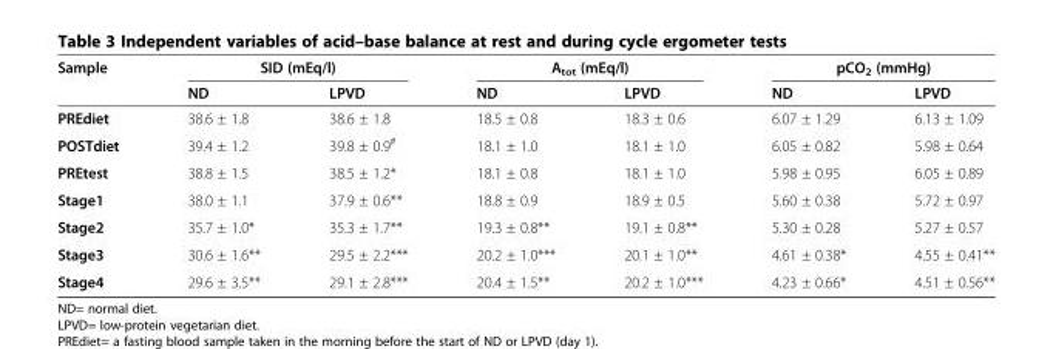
<table><thead><tr><td rowspan="2">Sample</td><td colspan="2">SID (mEq/l)</td><td colspan="2">A<sub>tot</sub> (mEq/l)</td><td colspan="2">pCO<sub>2</sub> (mmHg)</td></tr><tr><td>ND</td><td>LPVD</td><td>ND</td><td>LPVD</td><td>ND</td><td>LPVD</td></tr></thead><tbody><tr><td>PREdiet</td><td>38.6 ± 1.8</td><td>38.6 ± 1.8</td><td>18.5 ± 0.8</td><td>18.3 ± 0.6</td><td>6.07 ± 1.29</td><td>6.13 ± 1.09</td></tr><tr><td>POSTdiet</td><td>39.4 ± 1.2</td><td>39.8 ± 0.9<sup>#</sup></td><td>18.1 ± 1.0</td><td>18.1 ± 1.0</td><td>6.05 ± 0.82</td><td>5.98 ± 0.64</td></tr><tr><td>PREtest</td><td>38.8 ± 1.5</td><td>38.5 ± 1.2*</td><td>18.1 ± 0.8</td><td>18.1 ± 1.0</td><td>5.98 ± 0.95</td><td>6.05 ± 0.89</td></tr><tr><td>Stage1</td><td>38.0 ± 1.1</td><td>37.9 ± 0.6**</td><td>18.8 ± 0.9</td><td>18.9 ± 0.5</td><td>5.60 ± 0.38</td><td>5.72 ± 0.97</td></tr><tr><td>Stage2</td><td>35.7 ± 1.0*</td><td>35.3 ± 1.7**</td><td>19.3 ± 0.8**</td><td>19.1 ± 0.8**</td><td>5.30 ± 0.28</td><td>5.27 ± 0.57</td></tr><tr><td>Stage3</td><td>30.6 ± 1.6**</td><td>29.5 ± 2.2***</td><td>20.2 ± 1.0***</td><td>20.1 ± 1.0**</td><td>4.61 ± 0.38*</td><td>4.55 ± 0.41**</td></tr><tr><td>Stage4</td><td>29.6 ± 3.5**</td><td>29.1 ± 2.8***</td><td>20.4 ± 1.5**</td><td>20.2 ± 1.0***</td><td>4.23 ± 0.66*</td><td>4.51 ± 0.56**</td></tr></tbody></table>